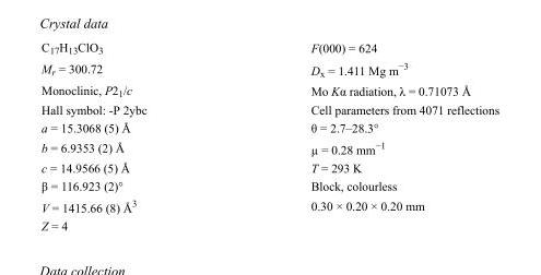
<table><tbody><tr><td>C<sub>17</sub>H<sub>13</sub>ClO<sub>3</sub></td><td>F(000) = 624</td></tr><tr><td>M<sub>r</sub> = 300.72</td><td>D<sub>x</sub> = 1.411 Mg m<sup>−3</sup></td></tr><tr><td>Monoclinic, P2<sub>1</sub>/c</td><td>Mo Kα radiation, λ = 0.71073 Å</td></tr><tr><td>Hall symbol: -P 2ybc</td><td>Cell parameters from 4071 reflections</td></tr><tr><td>a = 15.3068 (5) Å</td><td>θ = 2.7–28.3°</td></tr><tr><td>b = 6.9353 (2) Å</td><td>µ = 0.28 mm<sup>−1</sup></td></tr><tr><td>c = 14.9566 (5) Å</td><td>T = 293 K</td></tr><tr><td>β = 116.923 (2)°</td><td>Block, colourless</td></tr><tr><td>V = 1415.66 (8) Å<sup>3</sup></td><td>0.30 × 0.20 × 0.20 mm</td></tr><tr><td>Z = 4</td><td></td></tr></tbody></table>